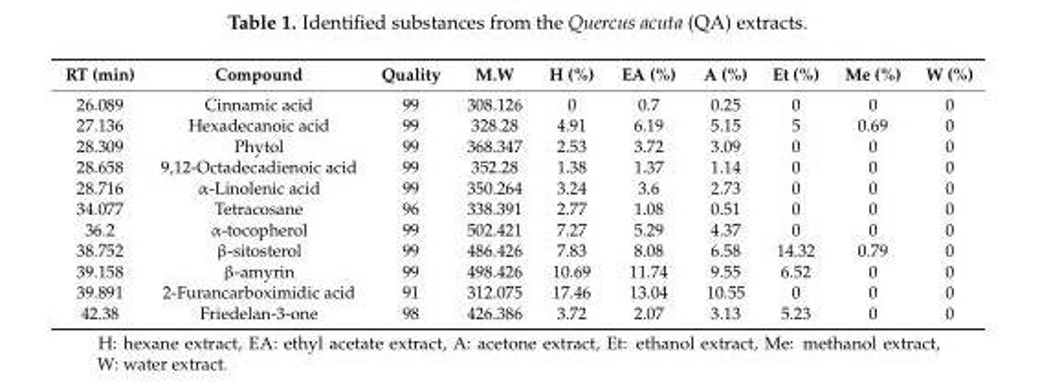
<table><thead><tr><td>RT (min)</td><td>Compound</td><td>Quality</td><td>M.W</td><td>H (%)</td><td>EA (%)</td><td>A (%)</td><td>Et (%)</td><td>Me (%)</td><td>W (%)</td></tr></thead><tbody><tr><td>26.089</td><td>Cinnamic acid</td><td>99</td><td>308.126</td><td>0</td><td>0.7</td><td>0.25</td><td>0</td><td>0</td><td>0</td></tr><tr><td>27.136</td><td>Hexadecanoic acid</td><td>99</td><td>328.28</td><td>4.91</td><td>6.19</td><td>5.15</td><td>5</td><td>0.69</td><td>0</td></tr><tr><td>28.309</td><td>Phytol</td><td>99</td><td>368.347</td><td>2.53</td><td>3.72</td><td>3.09</td><td>0</td><td>0</td><td>0</td></tr><tr><td>28.658</td><td>9,12-Octadecadienoic acid</td><td>99</td><td>352.28</td><td>1.38</td><td>1.37</td><td>1.14</td><td>0</td><td>0</td><td>0</td></tr><tr><td>28.716</td><td>α-Linolenic acid</td><td>99</td><td>350.264</td><td>3.24</td><td>3.6</td><td>2.73</td><td>0</td><td>0</td><td>0</td></tr><tr><td>34.077</td><td>Tetracosane</td><td>96</td><td>338.391</td><td>2.77</td><td>1.08</td><td>0.51</td><td>0</td><td>0</td><td>0</td></tr><tr><td>36.2</td><td>α-tocopherol</td><td>99</td><td>502.421</td><td>7.27</td><td>5.29</td><td>4.37</td><td>0</td><td>0</td><td>0</td></tr><tr><td>38.752</td><td>β-sitosterol</td><td>99</td><td>486.426</td><td>7.83</td><td>8.08</td><td>6.58</td><td>14.32</td><td>0.79</td><td>0</td></tr><tr><td>39.158</td><td>β-amyrin</td><td>99</td><td>498.426</td><td>10.69</td><td>11.74</td><td>9.55</td><td>6.52</td><td>0</td><td>0</td></tr><tr><td>39.891</td><td>2-Furancarboximidic acid</td><td>91</td><td>312.075</td><td>17.46</td><td>13.04</td><td>10.55</td><td>0</td><td>0</td><td>0</td></tr><tr><td>42.38</td><td>Friedelan-3-one</td><td>98</td><td>426.386</td><td>3.72</td><td>2.07</td><td>3.13</td><td>5.23</td><td>0</td><td>0</td></tr></tbody></table>